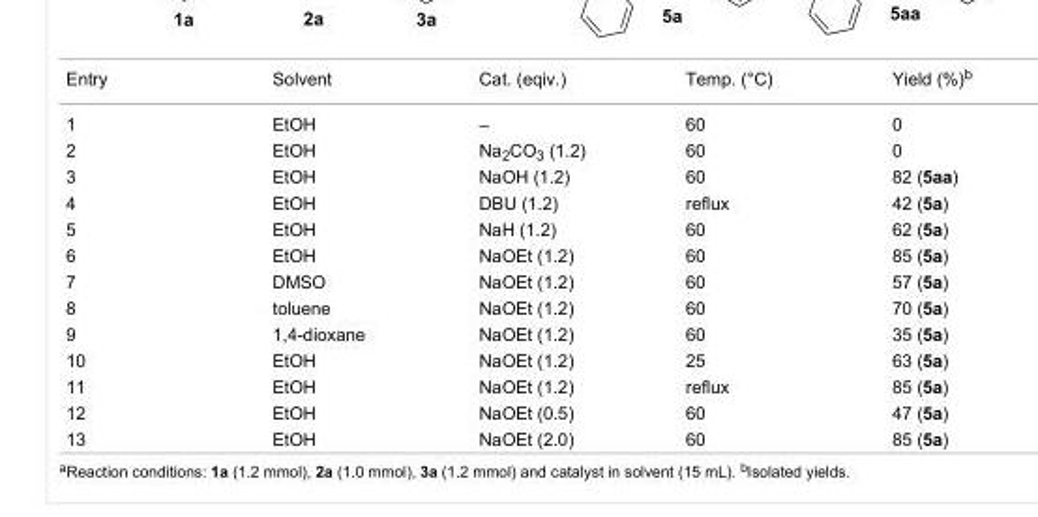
<table><tbody><tr><td>Entry</td><td>Solvent</td><td>Cat. (eqiv.)</td><td>Temp. (°C)</td><td>Yield (%)<sup>b</sup></td></tr><tr><td>1</td><td>EtOH</td><td>–</td><td>60</td><td>0</td></tr><tr><td>2</td><td>EtOH</td><td>Na<sub>2</sub>CO<sub>3</sub> (1.2)</td><td>60</td><td>0</td></tr><tr><td>3</td><td>EtOH</td><td>NaOH (1.2)</td><td>60</td><td>82 (5aa)</td></tr><tr><td>4</td><td>EtOH</td><td>DBU (1.2)</td><td>reflux</td><td>42 (5a)</td></tr><tr><td>5</td><td>EtOH</td><td>NaH (1.2)</td><td>60</td><td>62 (5a)</td></tr><tr><td>6</td><td>EtOH</td><td>NaOEt (1.2)</td><td>60</td><td>85 (5a)</td></tr><tr><td>7</td><td>DMSO</td><td>NaOEt (1.2)</td><td>60</td><td>57 (5a)</td></tr><tr><td>8</td><td>toluene</td><td>NaOEt (1.2)</td><td>60</td><td>70 (5a)</td></tr><tr><td>9</td><td>1,4-dioxane</td><td>NaOEt (1.2)</td><td>60</td><td>35 (5a)</td></tr><tr><td>10</td><td>EtOH</td><td>NaOEt (1.2)</td><td>25</td><td>63 (5a)</td></tr><tr><td>11</td><td>EtOH</td><td>NaOEt (1.2)</td><td>reflux</td><td>85 (5a)</td></tr><tr><td>12</td><td>EtOH</td><td>NaOEt (0.5)</td><td>60</td><td>47 (5a)</td></tr><tr><td>13</td><td>EtOH</td><td>NaOEt (2.0)</td><td>60</td><td>85 (5a)</td></tr></tbody></table>